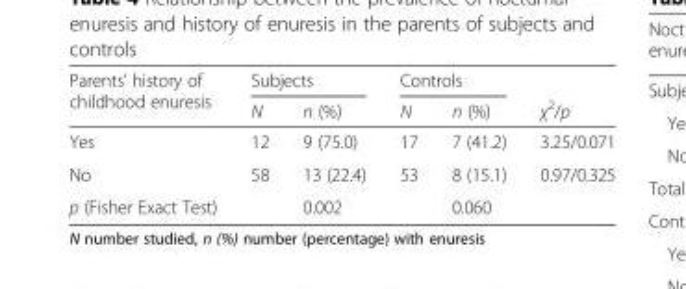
<table><thead><tr><td rowspan="2">Parents’ history of childhood enuresis</td><td colspan="2">Subjects</td><td colspan="2">Controls</td><td rowspan="2">χ<sup>2</sup>/p</td></tr><tr><td>N</td><td>n (%)</td><td>N</td><td>n (%)</td></tr></thead><tbody><tr><td>Yes</td><td>12</td><td>9 (75.0)</td><td>17</td><td>7 (41.2)</td><td>3.25/0.071</td></tr><tr><td>No</td><td>58</td><td>13 (22.4)</td><td>53</td><td>8 (15.1)</td><td>0.97/0.325</td></tr><tr><td>p (Fisher Exact Test)</td><td></td><td>0.002</td><td></td><td>0.060</td><td></td></tr></tbody></table>